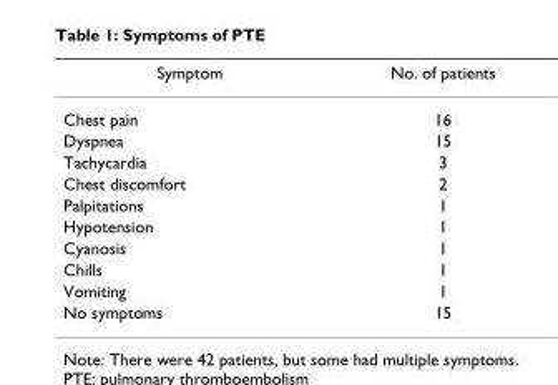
<table><thead><tr><td>Symptom</td><td>No. of patients</td></tr></thead><tbody><tr><td>Chest pain</td><td>16</td></tr><tr><td>Dyspnea</td><td>15</td></tr><tr><td>Tachycardia</td><td>3</td></tr><tr><td>Chest discomfort</td><td>2</td></tr><tr><td>Palpitations</td><td>1</td></tr><tr><td>Hypotension</td><td>1</td></tr><tr><td>Cyanosis</td><td>1</td></tr><tr><td>Chills</td><td>1</td></tr><tr><td>Vomiting</td><td>1</td></tr><tr><td>No symptoms</td><td>15</td></tr></tbody></table>